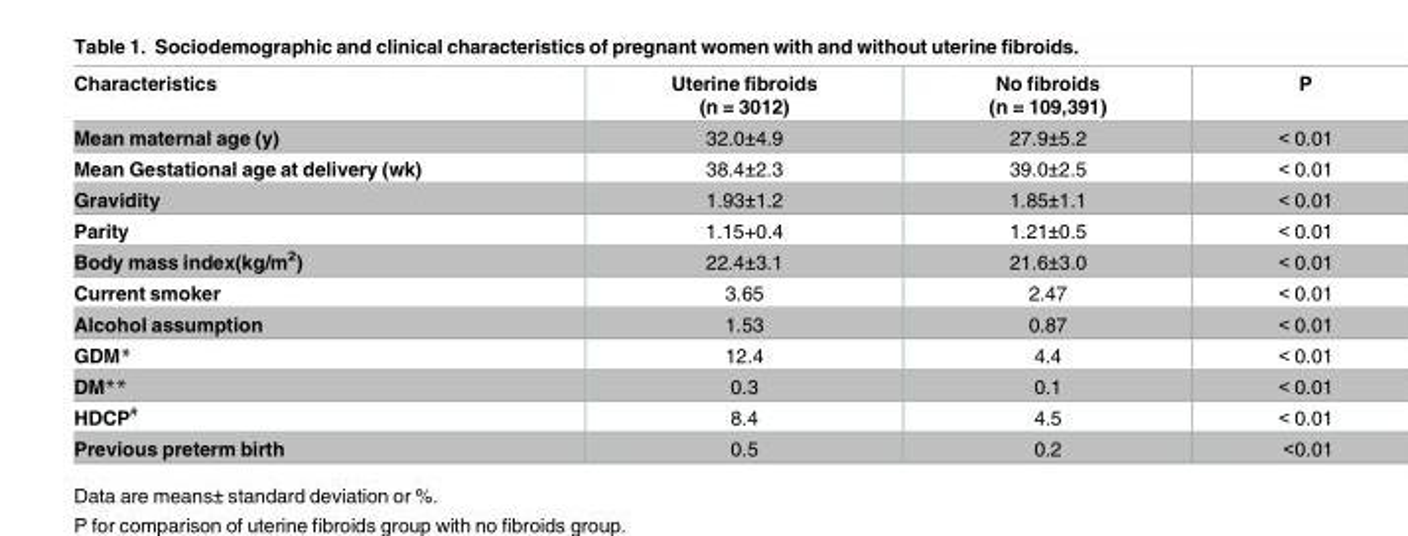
<table><thead><tr><td>Characteristics</td><td>Uterine fibroids (n = 3012)</td><td>No fibroids (n = 109,391)</td><td>P</td></tr></thead><tbody><tr><td>Mean maternal age (y)</td><td>32.0±4.9</td><td>27.9±5.2</td><td>&lt; 0.01</td></tr><tr><td>Mean Gestational age at delivery (wk)</td><td>38.4±2.3</td><td>39.0±2.5</td><td>&lt; 0.01</td></tr><tr><td>Gravidity</td><td>1.93±1.2</td><td>1.85±1.1</td><td>&lt; 0.01</td></tr><tr><td>Parity</td><td>1.15+0.4</td><td>1.21±0.5</td><td>&lt; 0.01</td></tr><tr><td>Body mass index(kg/m<sup>2</sup>)</td><td>22.4±3.1</td><td>21.6±3.0</td><td>&lt; 0.01</td></tr><tr><td>Current smoker</td><td>3.65</td><td>2.47</td><td>&lt; 0.01</td></tr><tr><td>Alcohol assumption</td><td>1.53</td><td>0.87</td><td>&lt; 0.01</td></tr><tr><td>GDM*</td><td>12.4</td><td>4.4</td><td>&lt; 0.01</td></tr><tr><td>DM**</td><td>0.3</td><td>0.1</td><td>&lt; 0.01</td></tr><tr><td>HDCP<sup>#</sup></td><td>8.4</td><td>4.5</td><td>&lt; 0.01</td></tr><tr><td>Previous preterm birth</td><td>0.5</td><td>0.2</td><td>&lt;0.01</td></tr></tbody></table>